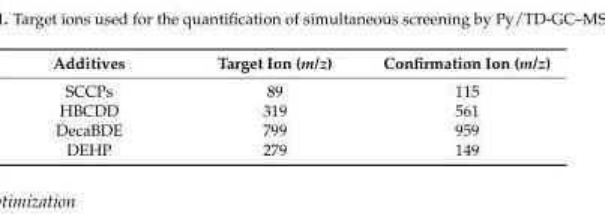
<table><thead><tr><td>Additives</td><td>Target Ion (m/z)</td><td>Confirmation Ion (m/z)</td></tr></thead><tbody><tr><td>SCCPs</td><td>89</td><td>115</td></tr><tr><td>HBCDD</td><td>319</td><td>561</td></tr><tr><td>DecaBDE</td><td>799</td><td>959</td></tr><tr><td>DEHP</td><td>279</td><td>149</td></tr></tbody></table>